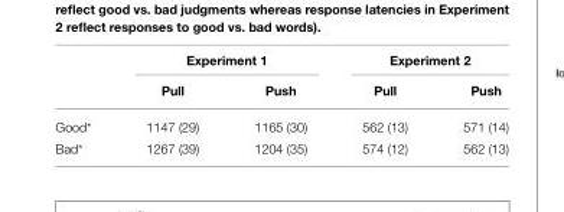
<table><thead><tr><td rowspan="2"></td><td colspan="2">Experiment 1</td><td colspan="2">Experiment 2</td></tr><tr><td>Pull</td><td>Push</td><td>Pull</td><td>Push</td></tr></thead><tbody><tr><td>Good*</td><td>1147 (29)</td><td>1165 (30)</td><td>562 (13)</td><td>571 (14)</td></tr><tr><td>Bad*</td><td>1267 (39)</td><td>1204 (35)</td><td>574 (12)</td><td>562 (13)</td></tr></tbody></table>